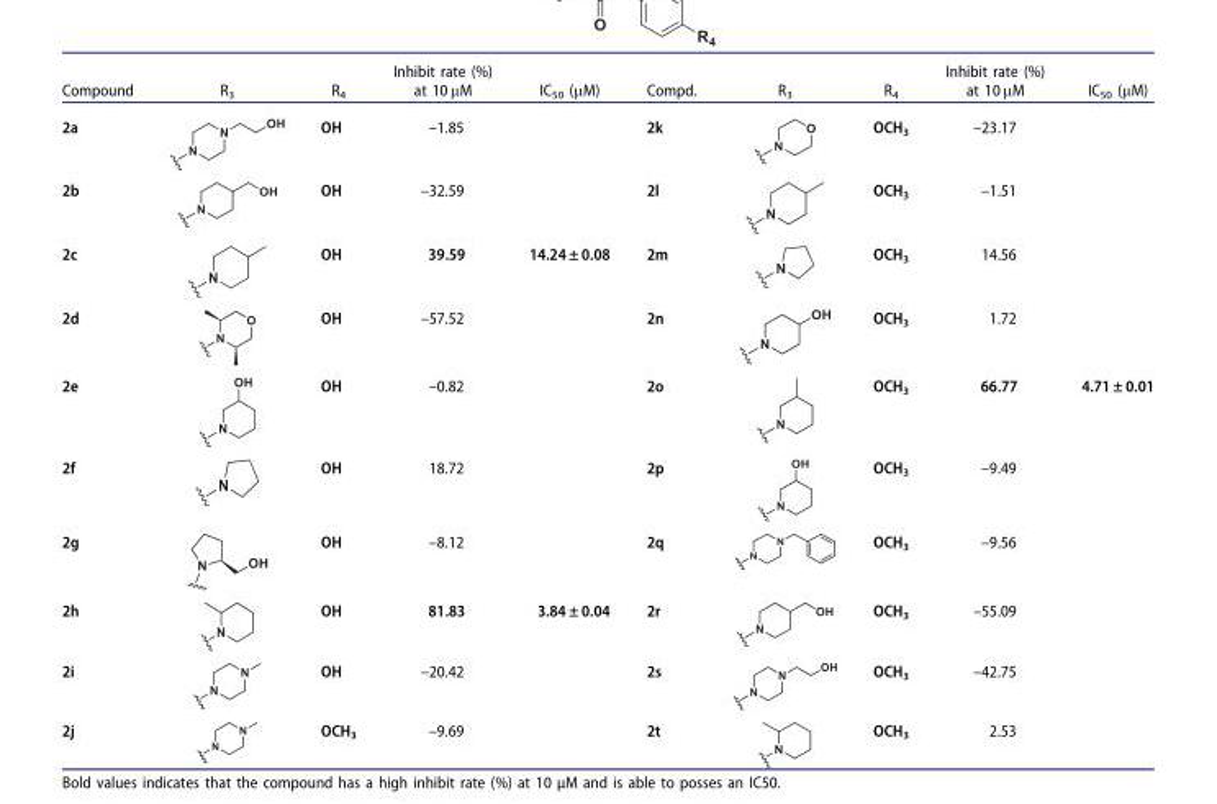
<table><thead><tr><td>Compound</td><td>R<sub>3</sub></td><td>R<sub>4</sub></td><td>Inhibit rate (%) at 10 μM</td><td>IC<sub>50</sub> (μM)</td><td>Compd.</td><td>R<sub>3</sub></td><td>R<sub>4</sub></td><td>Inhibit rate (%) at 10 μM</td><td>IC<sub>50</sub> (μM)</td></tr></thead><tbody><tr><td>2a</td><td></td><td>OH</td><td>–1.85</td><td></td><td>2k</td><td></td><td>OCH<sub>3</sub></td><td>–23.17</td><td></td></tr><tr><td>2b</td><td></td><td>OH</td><td>–32.59</td><td></td><td>2l</td><td></td><td>OCH<sub>3</sub></td><td>–1.51</td><td></td></tr><tr><td>2c</td><td></td><td>OH</td><td>39.59</td><td>14.24 ± 0.08</td><td>2m</td><td></td><td>OCH<sub>3</sub></td><td>14.56</td><td></td></tr><tr><td>2d</td><td></td><td>OH</td><td>–57.52</td><td></td><td>2n</td><td></td><td>OCH<sub>3</sub></td><td>1.72</td><td></td></tr><tr><td>2e</td><td></td><td>OH</td><td>–0.82</td><td></td><td>2o</td><td></td><td>OCH<sub>3</sub></td><td>66.77</td><td>4.71 ± 0.01</td></tr><tr><td>2f</td><td></td><td>OH</td><td>18.72</td><td></td><td>2p</td><td></td><td>OCH<sub>3</sub></td><td>–9.49</td><td></td></tr><tr><td>2g</td><td></td><td>OH</td><td>–8.12</td><td></td><td>2q</td><td></td><td>OCH<sub>3</sub></td><td>–9.56</td><td></td></tr><tr><td>2h</td><td></td><td>OH</td><td>81.83</td><td>3.84 ± 0.04</td><td>2r</td><td></td><td>OCH<sub>3</sub></td><td>–55.09</td><td></td></tr><tr><td>2i</td><td></td><td>OH</td><td>–20.42</td><td></td><td>2s</td><td></td><td>OCH<sub>3</sub></td><td>–42.75</td><td></td></tr><tr><td>2j</td><td></td><td>OCH<sub>3</sub></td><td>–9.69</td><td></td><td>2t</td><td></td><td>OCH<sub>3</sub></td><td>2.53</td><td></td></tr></tbody></table>